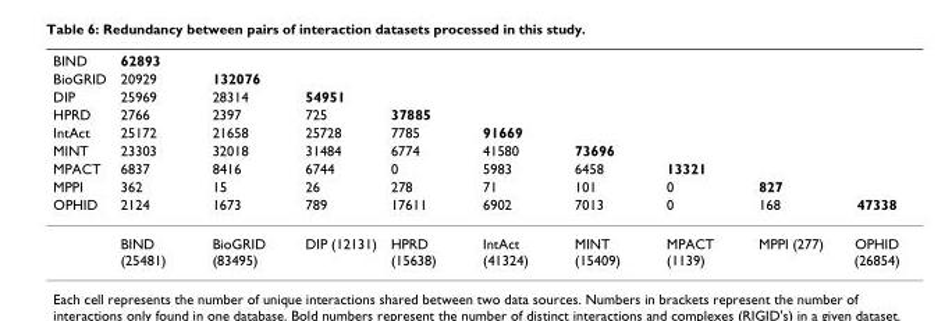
<table><thead><tr><td rowspan="9">BIND BioGRID DIP HPRD IntAct MINT MPACT MPPI OPHID</td><td rowspan="9">62893 20929 25969 2766 25172 23303 6837 362 2124</td><td rowspan="9">132076 28314 2397 21658 32018 8416 15 1673</td><td rowspan="9">54951 725 25728 31484 6744 26 789</td><td rowspan="9">37885 7785 6774 0 278 17611</td><td rowspan="9">91669 41580 5983 71 6902</td><td rowspan="9">73696 6458 101 7013</td><td rowspan="9">13321 0 0</td><td rowspan="9">827 168</td><td rowspan="9">47338</td></tr><tr></tr><tr></tr><tr></tr><tr></tr><tr></tr><tr></tr><tr></tr><tr></tr></thead><tbody><tr><td></td><td>BIND (25481)</td><td>BioGRID (83495)</td><td>DIP (12131)</td><td>HPRD (15638)</td><td>IntAct (41324)</td><td>MINT (15409)</td><td>MPACT (1139)</td><td>MPPI (277)</td><td>OPHID (26854)</td></tr></tbody></table>